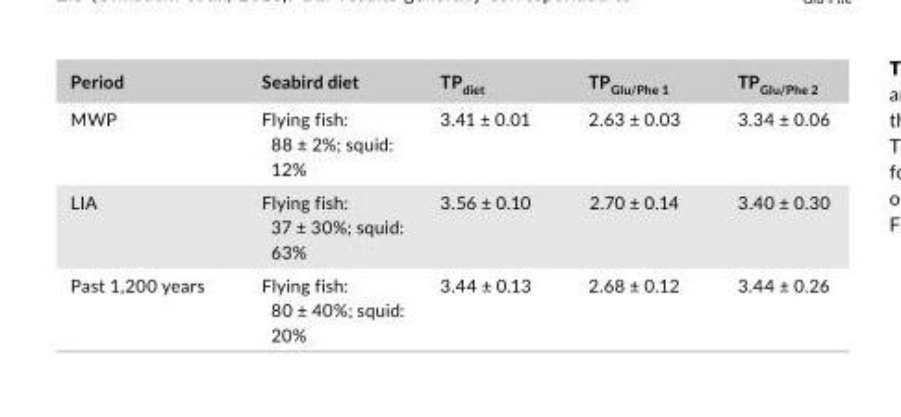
<table><thead><tr><td>Period</td><td>Seabird diet</td><td>TP<sub>diet</sub></td><td>TP<sub>Glu/Phe 1</sub></td><td>TP<sub>Glu/Phe 2</sub></td></tr></thead><tbody><tr><td>MWP</td><td>Flying fish: 88 ± 2%; squid: 12%</td><td>3.41 ± 0.01</td><td>2.63 ± 0.03</td><td>3.34 ± 0.06</td></tr><tr><td>LIA</td><td>Flying fish: 37 ± 30%; squid: 63%</td><td>3.56 ± 0.10</td><td>2.70 ± 0.14</td><td>3.40 ± 0.30</td></tr><tr><td>Past 1,200 years</td><td>Flying fish: 80 ± 40%; squid: 20%</td><td>3.44 ± 0.13</td><td>2.68 ± 0.12</td><td>3.44 ± 0.26</td></tr></tbody></table>